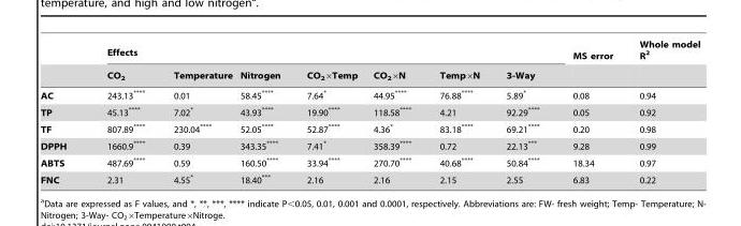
<table><thead><tr><td rowspan="2"></td><td colspan="7">Effects</td><td rowspan="2">MS error</td><td rowspan="2">Whole model R<sup>2</sup></td></tr><tr><td>CO<sub>2</sub></td><td>Temperature</td><td>Nitrogen</td><td>CO<sub>2</sub>×Temp</td><td>CO<sub>2</sub>×N</td><td>Temp×N</td><td>3-Way</td></tr></thead><tbody><tr><td>AC</td><td>243.13****</td><td>0.01</td><td>58.45****</td><td>7.64*</td><td>44.95****</td><td>76.88****</td><td>5.89*</td><td>0.08</td><td>0.94</td></tr><tr><td>TP</td><td>45.13****</td><td>7.02*</td><td>43.93****</td><td>19.90****</td><td>118.58****</td><td>4.21</td><td>92.29****</td><td>0.05</td><td>0.92</td></tr><tr><td>TF</td><td>807.89****</td><td>230.04****</td><td>52.05****</td><td>52.87****</td><td>4.36*</td><td>83.18****</td><td>69.21****</td><td>0.20</td><td>0.98</td></tr><tr><td>DPPH</td><td>1660.9****</td><td>0.39</td><td>343.35****</td><td>7.41*</td><td>358.39****</td><td>0.72</td><td>22.13***</td><td>9.28</td><td>0.99</td></tr><tr><td>ABTS</td><td>487.69****</td><td>0.59</td><td>160.50****</td><td>33.94****</td><td>270.70****</td><td>40.68****</td><td>50.84****</td><td>18.34</td><td>0.97</td></tr><tr><td>FNC</td><td>2.31</td><td>4.55*</td><td>18.40***</td><td>2.16</td><td>2.16</td><td>2.15</td><td>2.55</td><td>6.83</td><td>0.22</td></tr></tbody></table>